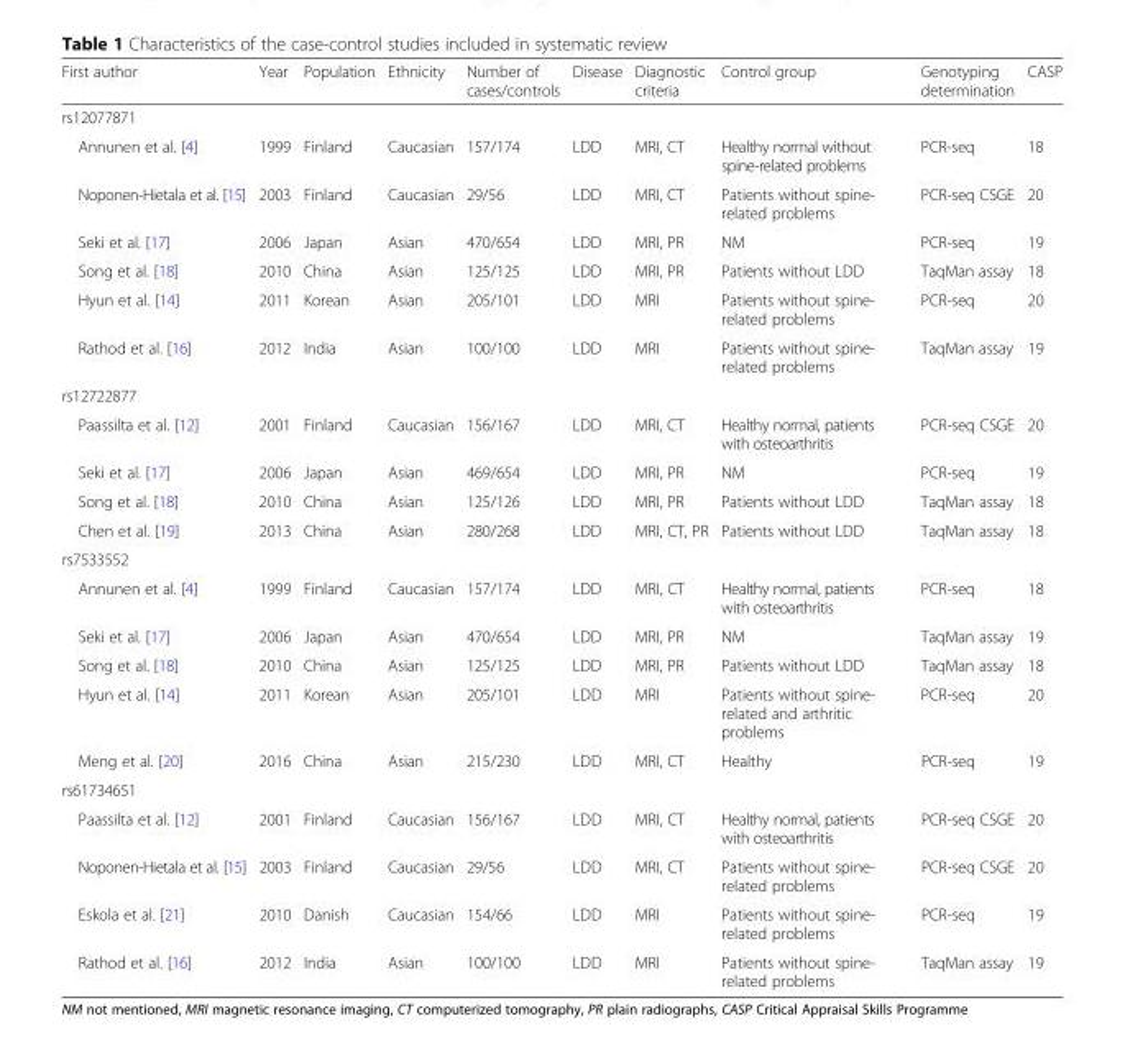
<table><thead><tr><td>First author</td><td>Year</td><td>Population</td><td>Ethnicity</td><td>Number of cases/controls</td><td>Disease</td><td>Diagnostic criteria</td><td>Control group</td><td>Genotyping determination</td><td>CASP</td></tr></thead><tbody><tr><td colspan="10">rs12077871</td></tr><tr><td>Annunen et al. [4]</td><td>1999</td><td>Finland</td><td>Caucasian</td><td>157/174</td><td>LDD</td><td>MRI, CT</td><td>Healthy normal without spine-related problems</td><td>PCR-seq</td><td>18</td></tr><tr><td>Noponen-Hietala et al. [15]</td><td>2003</td><td>Finland</td><td>Caucasian</td><td>29/56</td><td>LDD</td><td>MRI, CT</td><td>Patients without spine- related problems</td><td>PCR-seq CSGE</td><td>20</td></tr><tr><td>Seki et al. [17]</td><td>2006</td><td>Japan</td><td>Asian</td><td>470/654</td><td>LDD</td><td>MRI, PR</td><td>NM</td><td>PCR-seq</td><td>19</td></tr><tr><td>Song et al. [18]</td><td>2010</td><td>China</td><td>Asian</td><td>125/125</td><td>LDD</td><td>MRI, PR</td><td>Patients without LDD</td><td>TaqMan assay</td><td>18</td></tr><tr><td>Hyun et al. [14]</td><td>2011</td><td>Korean</td><td>Asian</td><td>205/101</td><td>LDD</td><td>MRI</td><td>Patients without spine- related problems</td><td>PCR-seq</td><td>20</td></tr><tr><td>Rathod et al. [16]</td><td>2012</td><td>India</td><td>Asian</td><td>100/100</td><td>LDD</td><td>MRI</td><td>Patients without spine- related problems</td><td>TaqMan assay</td><td>19</td></tr><tr><td colspan="10">rs12722877</td></tr><tr><td>Paassilta et al. [12]</td><td>2001</td><td>Finland</td><td>Caucasian</td><td>156/167</td><td>LDD</td><td>MRI, CT</td><td>Healthy normal, patients with osteoarthritis</td><td>PCR-seq CSGE</td><td>20</td></tr><tr><td>Seki et al. [17]</td><td>2006</td><td>Japan</td><td>Asian</td><td>469/654</td><td>LDD</td><td>MRI, PR</td><td>NM</td><td>PCR-seq</td><td>19</td></tr><tr><td>Song et al. [18]</td><td>2010</td><td>China</td><td>Asian</td><td>125/126</td><td>LDD</td><td>MRI, PR</td><td>Patients without LDD</td><td>TaqMan assay</td><td>18</td></tr><tr><td>Chen et al. [19]</td><td>2013</td><td>China</td><td>Asian</td><td>280/268</td><td>LDD</td><td>MRI, CT, PR</td><td>Patients without LDD</td><td>TaqMan assay</td><td>18</td></tr><tr><td colspan="10">rs7533552</td></tr><tr><td>Annunen et al. [4]</td><td>1999</td><td>Finland</td><td>Caucasian</td><td>157/174</td><td>LDD</td><td>MRI, CT</td><td>Healthy normal, patients with osteoarthritis</td><td>PCR-seq</td><td>18</td></tr><tr><td>Seki et al. [17]</td><td>2006</td><td>Japan</td><td>Asian</td><td>470/654</td><td>LDD</td><td>MRI, PR</td><td>NM</td><td>TaqMan assay</td><td>19</td></tr><tr><td>Song et al. [18]</td><td>2010</td><td>China</td><td>Asian</td><td>125/125</td><td>LDD</td><td>MRI, PR</td><td>Patients without LDD</td><td>TaqMan assay</td><td>18</td></tr><tr><td>Hyun et al. [14]</td><td>2011</td><td>Korean</td><td>Asian</td><td>205/101</td><td>LDD</td><td>MRI</td><td>Patients without spine- related and arthritic problems</td><td>PCR-seq</td><td>20</td></tr><tr><td>Meng et al. [20]</td><td>2016</td><td>China</td><td>Asian</td><td>215/230</td><td>LDD</td><td>MRI, CT</td><td>Healthy</td><td>PCR-seq</td><td>19</td></tr><tr><td colspan="10">rs61734651</td></tr><tr><td>Paassilta et al. [12]</td><td>2001</td><td>Finland</td><td>Caucasian</td><td>156/167</td><td>LDD</td><td>MRI, CT</td><td>Healthy normal, patients with osteoarthritis</td><td>PCR-seq CSGE</td><td>20</td></tr><tr><td>Noponen-Hietala et al. [15]</td><td>2003</td><td>Finland</td><td>Caucasian</td><td>29/56</td><td>LDD</td><td>MRI, CT</td><td>Patients without spine- related problems</td><td>PCR-seq CSGE</td><td>20</td></tr><tr><td>Eskola et al. [21]</td><td>2010</td><td>Danish</td><td>Caucasian</td><td>154/66</td><td>LDD</td><td>MRI</td><td>Patients without spine- related problems</td><td>PCR-seq</td><td>19</td></tr><tr><td>Rathod et al. [16]</td><td>2012</td><td>India</td><td>Asian</td><td>100/100</td><td>LDD</td><td>MRI</td><td>Patients without spine- related problems</td><td>TaqMan assay</td><td>19</td></tr></tbody></table>